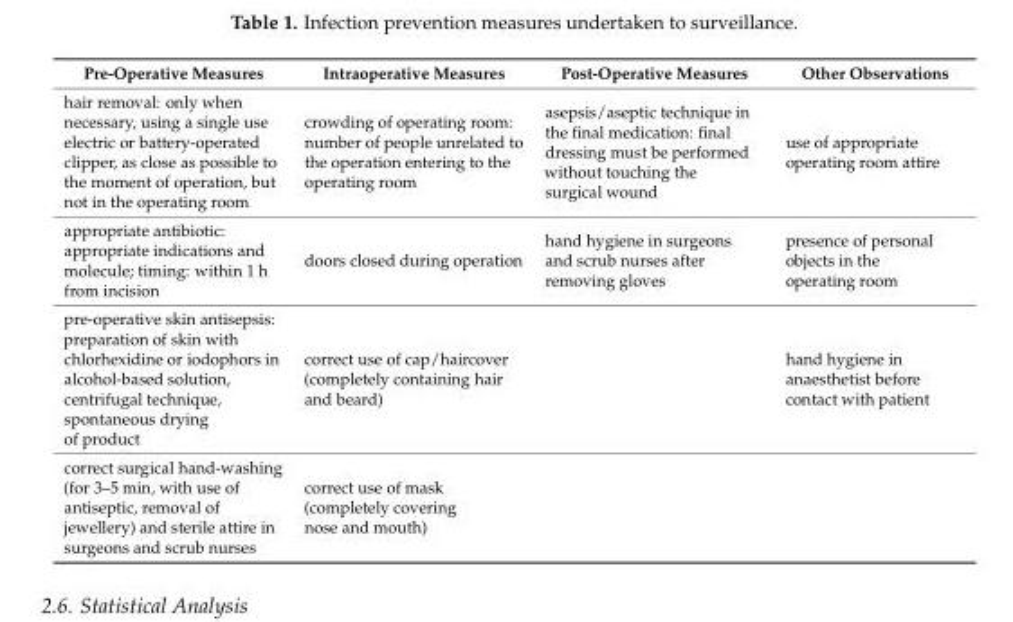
<table><thead><tr><td>Pre-Operative Measures</td><td>Intraoperative Measures</td><td>Post-Operative Measures</td><td>Other Observations</td></tr></thead><tbody><tr><td>hair removal: only when necessary, using a single use electric or battery-operated clipper, as close as possible to the moment of operation, but not in the operating room</td><td>crowding of operating room: number of people unrelated to the operation entering to the operating room</td><td>asepsis/aseptic technique in the final medication: final dressing must be performed without touching the surgical wound</td><td>use of appropriate operating room attire</td></tr><tr><td>appropriate antibiotic: appropriate indications and molecule; timing: within 1 h from incision</td><td>doors closed during operation</td><td>hand hygiene in surgeons and scrub nurses after removing gloves</td><td>presence of personal objects in the operating room</td></tr><tr><td>pre-operative skin antisepsis: preparation of skin with chlorhexidine or iodophors in alcohol-based solution, centrifugal technique, spontaneous drying of product</td><td>correct use of cap/haircover (completely containing hair and beard)</td><td></td><td>hand hygiene in anaesthetist before contact with patient</td></tr><tr><td>correct surgical hand-washing (for 3–5 min, with use of antiseptic, removal of jewellery) and sterile attire in surgeons and scrub nurses</td><td>correct use of mask (completely covering nose and mouth)</td><td></td><td></td></tr></tbody></table>